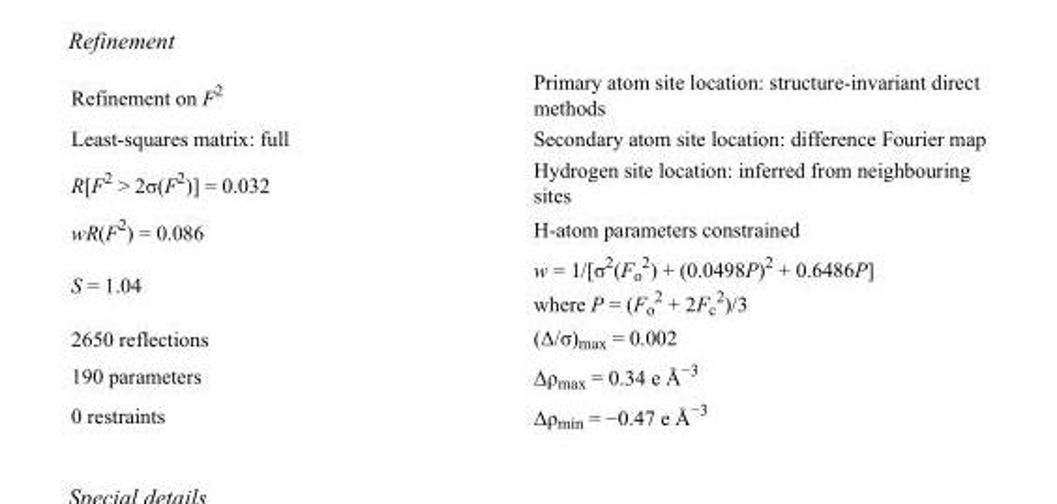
<table><tbody><tr><td>Refinement on F<sup>2</sup></td><td>Primary atom site location: structure-invariant direct methods</td></tr><tr><td>Least-squares matrix: full</td><td>Secondary atom site location: difference Fourier map</td></tr><tr><td>R[F<sup>2</sup> &gt; 2σ(F<sup>2</sup>)] = 0.032</td><td>Hydrogen site location: inferred from neighbouring sites</td></tr><tr><td>wR(F<sup>2</sup>) = 0.086</td><td>H-atom parameters constrained</td></tr><tr><td>S = 1.04</td><td>w = 1/[σ<sup>2</sup>(F<sub>o</sub> <sup>2</sup>) + (0.0498P)<sup>2</sup> + 0.6486P] where P = (F<sub>o</sub> <sup>2</sup> + 2F<sub>c</sub> <sup>2</sup>)/3</td></tr><tr><td>2650 reflections</td><td>(Δ/σ)<sub>max</sub> = 0.002</td></tr><tr><td>190 parameters</td><td>Δρ<sub>max</sub> = 0.34 e Å<sup>−3</sup></td></tr><tr><td>0 restraints</td><td>Δρ<sub>min</sub> = −0.47 e Å<sup>−3</sup></td></tr></tbody></table>